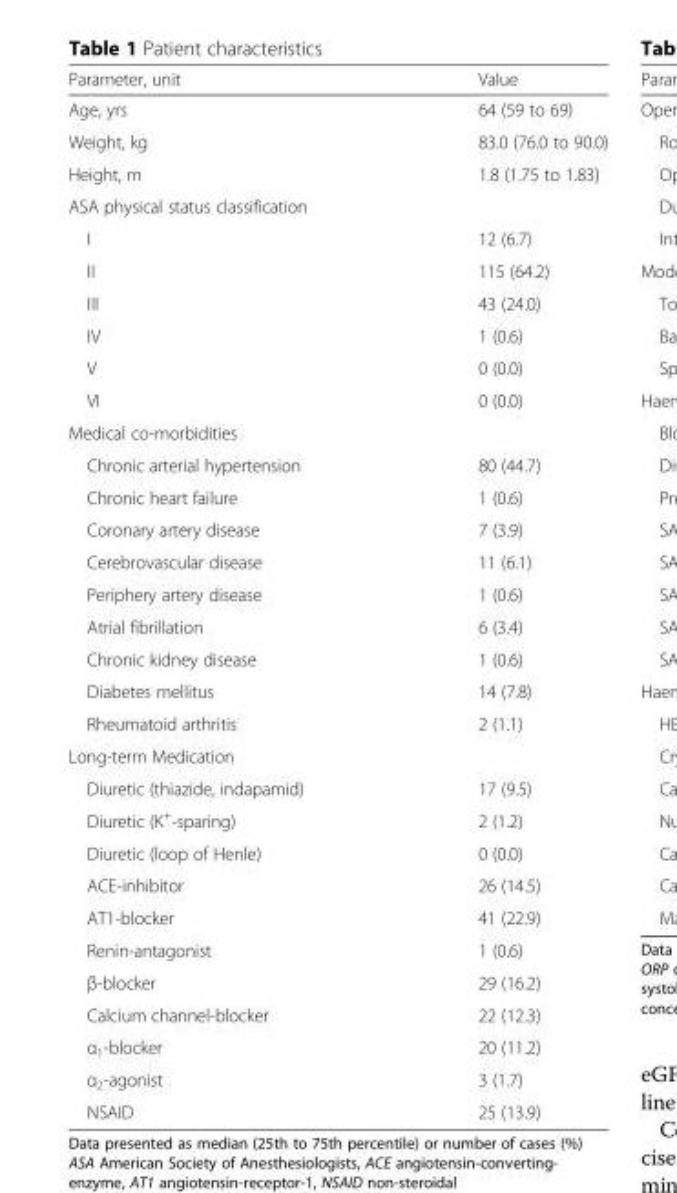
<table><thead><tr><td>Parameter, unit</td><td>Value</td></tr></thead><tbody><tr><td>Age, yrs</td><td>64 (59 to 69)</td></tr><tr><td>Weight, kg</td><td>83.0 (76.0 to 90.0)</td></tr><tr><td>Height, m</td><td>1.8 (1.75 to 1.83)</td></tr><tr><td colspan="2">ASA physical status classification</td></tr><tr><td>I</td><td>12 (6.7)</td></tr><tr><td>II</td><td>115 (64.2)</td></tr><tr><td>III</td><td>43 (24.0)</td></tr><tr><td>IV</td><td>1 (0.6)</td></tr><tr><td>V</td><td>0 (0.0)</td></tr><tr><td>VI</td><td>0 (0.0)</td></tr><tr><td colspan="2">Medical co-morbidities</td></tr><tr><td>Chronic arterial hypertension</td><td>80 (44.7)</td></tr><tr><td>Chronic heart failure</td><td>1 (0.6)</td></tr><tr><td>Coronary artery disease</td><td>7 (3.9)</td></tr><tr><td>Cerebrovascular disease</td><td>11 (6.1)</td></tr><tr><td>Periphery artery disease</td><td>1 (0.6)</td></tr><tr><td>Atrial fibrillation</td><td>6 (3.4)</td></tr><tr><td>Chronic kidney disease</td><td>1 (0.6)</td></tr><tr><td>Diabetes mellitus</td><td>14 (7.8)</td></tr><tr><td>Rheumatoid arthritis</td><td>2 (1.1)</td></tr><tr><td colspan="2">Long-term Medication</td></tr><tr><td>Diuretic (thiazide, indapamid)</td><td>17 (9.5)</td></tr><tr><td>Diuretic (K<sup>+</sup>-sparing)</td><td>2 (1.2)</td></tr><tr><td>Diuretic (loop of Henle)</td><td>0 (0.0)</td></tr><tr><td>ACE-inhibitor</td><td>26 (14.5)</td></tr><tr><td>AT1-blocker</td><td>41 (22.9)</td></tr><tr><td>Renin-antagonist</td><td>1 (0.6)</td></tr><tr><td>β-blocker</td><td>29 (16.2)</td></tr><tr><td>Calcium channel-blocker</td><td>22 (12.3)</td></tr><tr><td>α<sub>1</sub>-blocker</td><td>20 (11.2)</td></tr><tr><td>α<sub>2</sub>-agonist</td><td>3 (1.7)</td></tr><tr><td>NSAID</td><td>25 (13.9)</td></tr></tbody></table>